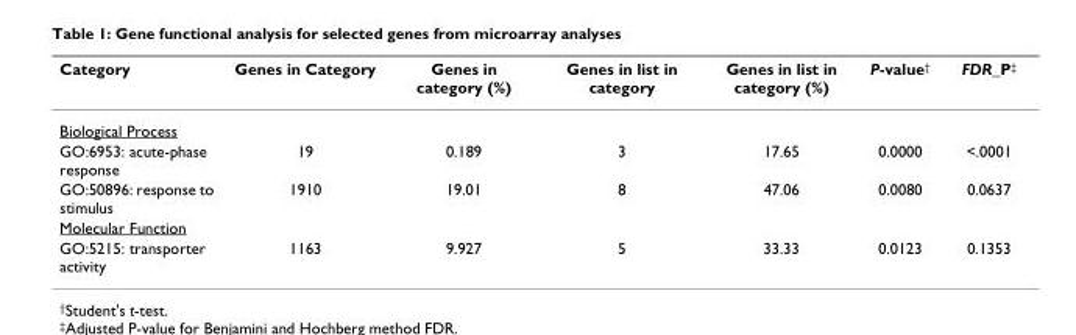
<table><thead><tr><td>Category</td><td>Genes in Category</td><td>Genes in category (%)</td><td>Genes in list in category</td><td>Genes in list in category (%)</td><td>P-value<sup>†</sup></td><td>FDR_P<sup>‡</sup></td></tr></thead><tbody><tr><td colspan="7">Biological Process</td></tr><tr><td>GO:6953: acute-phase response</td><td>19</td><td>0.189</td><td>3</td><td>17.65</td><td>0.0000</td><td>&lt;.0001</td></tr><tr><td>GO:50896: response to stimulus</td><td>1910</td><td>19.01</td><td>8</td><td>47.06</td><td>0.0080</td><td>0.0637</td></tr><tr><td colspan="7">Molecular Function</td></tr><tr><td>GO:5215: transporter activity</td><td>1163</td><td>9.927</td><td>5</td><td>33.33</td><td>0.0123</td><td>0.1353</td></tr></tbody></table>